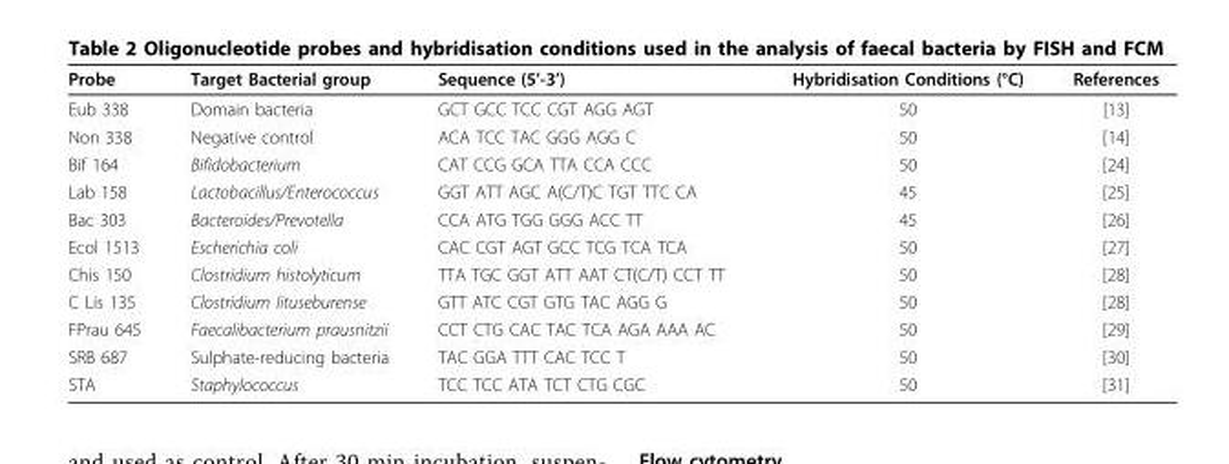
<table><thead><tr><td>Probe</td><td>Target Bacterial group</td><td>Sequence (5’-3’)</td><td>Hybridisation Conditions (°C)</td><td>References</td></tr></thead><tbody><tr><td>Eub 338</td><td>Domain bacteria</td><td>GCT GCC TCC CGT AGG AGT</td><td>50</td><td>[13]</td></tr><tr><td>Non 338</td><td>Negative control</td><td>ACA TCC TAC GGG AGG C</td><td>50</td><td>[14]</td></tr><tr><td>Bif 164</td><td>Bifidobacterium</td><td>CAT CCG GCA TTA CCA CCC</td><td>50</td><td>[24]</td></tr><tr><td>Lab 158</td><td>Lactobacillus/Enterococcus</td><td>GGT ATT AGC A(C/T)C TGT TTC CA</td><td>45</td><td>[25]</td></tr><tr><td>Bac 303</td><td>Bacteroides/Prevotella</td><td>CCA ATG TGG GGG ACC TT</td><td>45</td><td>[26]</td></tr><tr><td>Ecol 1513</td><td>Escherichia coli</td><td>CAC CGT AGT GCC TCG TCA TCA</td><td>50</td><td>[27]</td></tr><tr><td>Chis 150</td><td>Clostridium histolyticum</td><td>TTA TGC GGT ATT AAT CT(C/T) CCT TT</td><td>50</td><td>[28]</td></tr><tr><td>C Lis 135</td><td>Clostridium lituseburense</td><td>GTT ATC CGT GTG TAC AGG G</td><td>50</td><td>[28]</td></tr><tr><td>FPrau 645</td><td>Faecalibacterium prausnitzii</td><td>CCT CTG CAC TAC TCA AGA AAA AC</td><td>50</td><td>[29]</td></tr><tr><td>SRB 687</td><td>Sulphate-reducing bacteria</td><td>TAC GGA TTT CAC TCC T</td><td>50</td><td>[30]</td></tr><tr><td>STA</td><td>Staphylococcus</td><td>TCC TCC ATA TCT CTG CGC</td><td>50</td><td>[31]</td></tr></tbody></table>